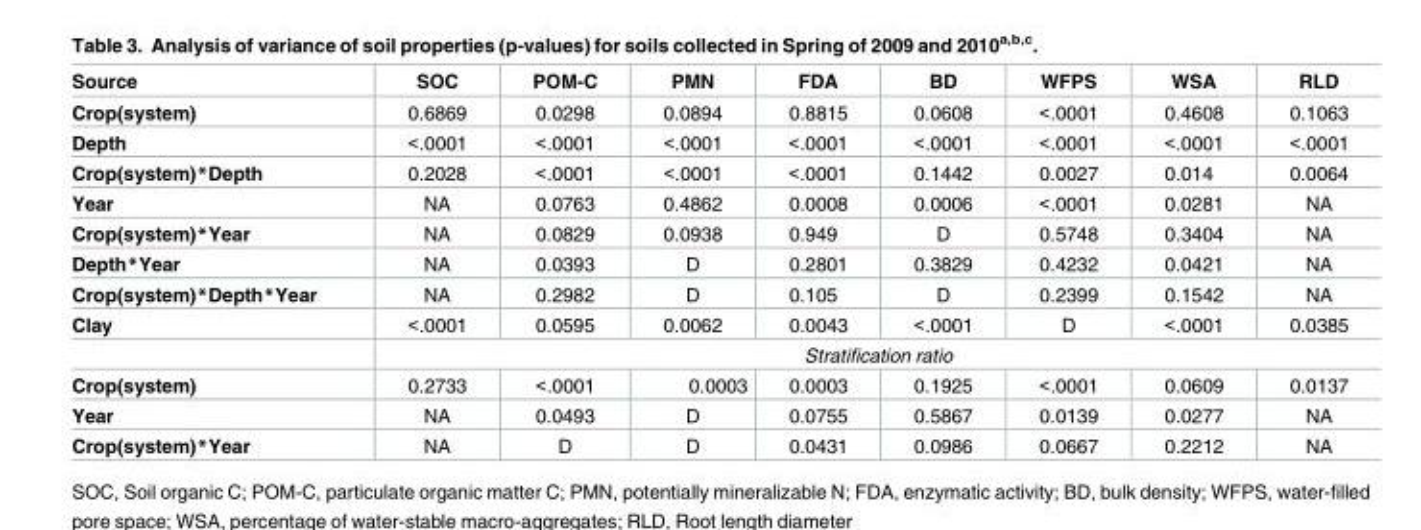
<table><thead><tr><td>Source</td><td>SOC</td><td>POM-C</td><td>PMN</td><td>FDA</td><td>BD</td><td>WFPS</td><td>WSA</td><td>RLD</td></tr></thead><tbody><tr><td>Crop(system)</td><td>0.6869</td><td>0.0298</td><td>0.0894</td><td>0.8815</td><td>0.0608</td><td>&lt;.0001</td><td>0.4608</td><td>0.1063</td></tr><tr><td>Depth</td><td>&lt;.0001</td><td>&lt;.0001</td><td>&lt;.0001</td><td>&lt;.0001</td><td>&lt;.0001</td><td>&lt;.0001</td><td>&lt;.0001</td><td>&lt;.0001</td></tr><tr><td>Crop(system)*Depth</td><td>0.2028</td><td>&lt;.0001</td><td>&lt;.0001</td><td>&lt;.0001</td><td>0.1442</td><td>0.0027</td><td>0.014</td><td>0.0064</td></tr><tr><td>Year</td><td>NA</td><td>0.0763</td><td>0.4862</td><td>0.0008</td><td>0.0006</td><td>&lt;.0001</td><td>0.0281</td><td>NA</td></tr><tr><td>Crop(system)*Year</td><td>NA</td><td>0.0829</td><td>0.0938</td><td>0.949</td><td>D</td><td>0.5748</td><td>0.3404</td><td>NA</td></tr><tr><td>Depth*Year</td><td>NA</td><td>0.0393</td><td>D</td><td>0.2801</td><td>0.3829</td><td>0.4232</td><td>0.0421</td><td>NA</td></tr><tr><td>Crop(system)*Depth*Year</td><td>NA</td><td>0.2982</td><td>D</td><td>0.105</td><td>D</td><td>0.2399</td><td>0.1542</td><td>NA</td></tr><tr><td rowspan="2">Clay</td><td>&lt;.0001</td><td>0.0595</td><td>0.0062</td><td>0.0043</td><td>&lt;.0001</td><td>D</td><td>&lt;.0001</td><td>0.0385</td></tr><tr><td colspan="8">Stratification ratio</td></tr><tr><td>Crop(system)</td><td>0.2733</td><td>&lt;.0001</td><td>0.0003</td><td>0.0003</td><td>0.1925</td><td>&lt;.0001</td><td>0.0609</td><td>0.0137</td></tr><tr><td>Year</td><td>NA</td><td>0.0493</td><td>D</td><td>0.0755</td><td>0.5867</td><td>0.0139</td><td>0.0277</td><td>NA</td></tr><tr><td>Crop(system)*Year</td><td>NA</td><td>D</td><td>D</td><td>0.0431</td><td>0.0986</td><td>0.0667</td><td>0.2212</td><td>NA</td></tr></tbody></table>